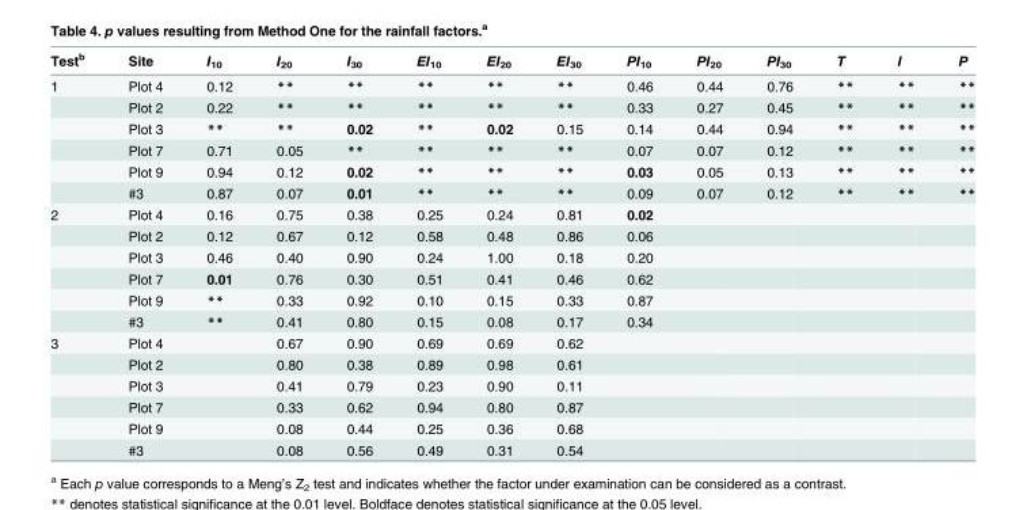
<table><thead><tr><td>Test<sup>b</sup></td><td>Site</td><td>I<sub>10</sub></td><td>I<sub>20</sub></td><td>I<sub>30</sub></td><td>EI<sub>10</sub></td><td>EI<sub>20</sub></td><td>EI<sub>30</sub></td><td>PI<sub>10</sub></td><td>PI<sub>20</sub></td><td>PI<sub>30</sub></td><td>T</td><td>I</td><td>P</td></tr></thead><tbody><tr><td rowspan="6">1</td><td>Plot 4</td><td>0.12</td><td>**</td><td>**</td><td>**</td><td>**</td><td>**</td><td>0.46</td><td>0.44</td><td>0.76</td><td>**</td><td>**</td><td>**</td></tr><tr><td>Plot 2</td><td>0.22</td><td>**</td><td>**</td><td>**</td><td>**</td><td>**</td><td>0.33</td><td>0.27</td><td>0.45</td><td>**</td><td>**</td><td>**</td></tr><tr><td>Plot 3</td><td>**</td><td>**</td><td>0.02</td><td>**</td><td>0.02</td><td>0.15</td><td>0.14</td><td>0.44</td><td>0.94</td><td>**</td><td>**</td><td>**</td></tr><tr><td>Plot 7</td><td>0.71</td><td>0.05</td><td>**</td><td>**</td><td>**</td><td>**</td><td>0.07</td><td>0.07</td><td>0.12</td><td>**</td><td>**</td><td>**</td></tr><tr><td>Plot 9</td><td>0.94</td><td>0.12</td><td>0.02</td><td>**</td><td>**</td><td>**</td><td>0.03</td><td>0.05</td><td>0.13</td><td>**</td><td>**</td><td>**</td></tr><tr><td>#3</td><td>0.87</td><td>0.07</td><td>0.01</td><td>**</td><td>**</td><td>**</td><td>0.09</td><td>0.07</td><td>0.12</td><td>**</td><td>**</td><td>**</td></tr><tr><td rowspan="6">2</td><td>Plot 4</td><td>0.16</td><td>0.75</td><td>0.38</td><td>0.25</td><td>0.24</td><td>0.81</td><td>0.02</td><td></td><td></td><td></td><td></td><td></td></tr><tr><td>Plot 2</td><td>0.12</td><td>0.67</td><td>0.12</td><td>0.58</td><td>0.48</td><td>0.86</td><td>0.06</td><td></td><td></td><td></td><td></td><td></td></tr><tr><td>Plot 3</td><td>0.46</td><td>0.40</td><td>0.90</td><td>0.24</td><td>1.00</td><td>0.18</td><td>0.20</td><td></td><td></td><td></td><td></td><td></td></tr><tr><td>Plot 7</td><td>0.01</td><td>0.76</td><td>0.30</td><td>0.51</td><td>0.41</td><td>0.46</td><td>0.62</td><td></td><td></td><td></td><td></td><td></td></tr><tr><td>Plot 9</td><td>**</td><td>0.33</td><td>0.92</td><td>0.10</td><td>0.15</td><td>0.33</td><td>0.87</td><td></td><td></td><td></td><td></td><td></td></tr><tr><td>#3</td><td>**</td><td>0.41</td><td>0.80</td><td>0.15</td><td>0.08</td><td>0.17</td><td>0.34</td><td></td><td></td><td></td><td></td><td></td></tr><tr><td rowspan="6">3</td><td>Plot 4</td><td></td><td>0.67</td><td>0.90</td><td>0.69</td><td>0.69</td><td>0.62</td><td></td><td></td><td></td><td></td><td></td><td></td></tr><tr><td>Plot 2</td><td></td><td>0.80</td><td>0.38</td><td>0.89</td><td>0.98</td><td>0.61</td><td></td><td></td><td></td><td></td><td></td><td></td></tr><tr><td>Plot 3</td><td></td><td>0.41</td><td>0.79</td><td>0.23</td><td>0.90</td><td>0.11</td><td></td><td></td><td></td><td></td><td></td><td></td></tr><tr><td>Plot 7</td><td></td><td>0.33</td><td>0.62</td><td>0.94</td><td>0.80</td><td>0.87</td><td></td><td></td><td></td><td></td><td></td><td></td></tr><tr><td>Plot 9</td><td></td><td>0.08</td><td>0.44</td><td>0.25</td><td>0.36</td><td>0.68</td><td></td><td></td><td></td><td></td><td></td><td></td></tr><tr><td>#3</td><td></td><td>0.08</td><td>0.56</td><td>0.49</td><td>0.31</td><td>0.54</td><td></td><td></td><td></td><td></td><td></td><td></td></tr></tbody></table>